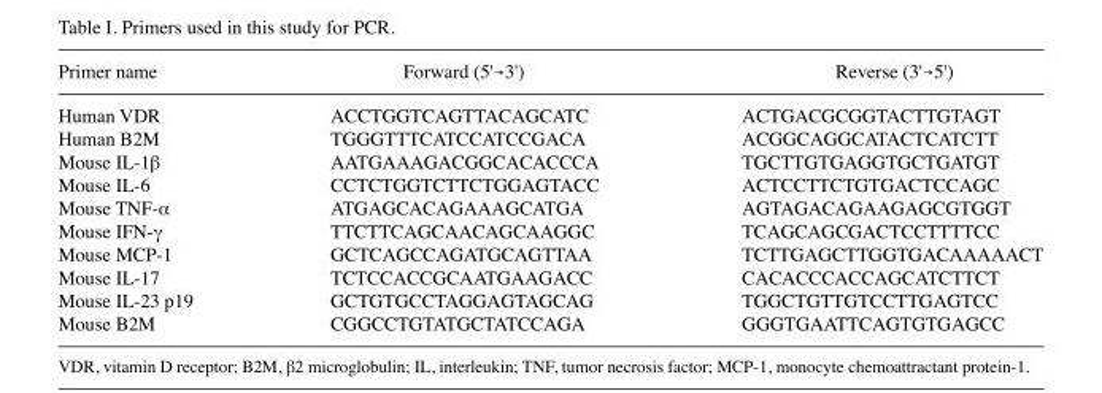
<table><thead><tr><td>Primer name</td><td>Forward (5&#x27;→3&#x27;)</td><td>Reverse (3&#x27;→5&#x27;)</td></tr></thead><tbody><tr><td>Human VDR</td><td>ACCTGGTCAGTTACAGCATC</td><td>ACTGACGCGGTACTTGTAGT</td></tr><tr><td>Human B2M</td><td>TGGGTTTCATCCATCCGACA</td><td>ACGGCAGGCATACTCATCTT</td></tr><tr><td>Mouse IL-1β</td><td>AATGAAAGACGGCACACCCA</td><td>TGCTTGTGAGGTGCTGATGT</td></tr><tr><td>Mouse IL-6</td><td>CCTCTGGTCTTCTGGAGTACC</td><td>ACTCCTTCTGTGACTCCAGC</td></tr><tr><td>Mouse TNF-α</td><td>ATGAGCACAGAAAGCATGA</td><td>AGTAGACAGAAGAGCGTGGT</td></tr><tr><td>Mouse IFN-γ</td><td>TTCTTCAGCAACAGCAAGGC</td><td>TCAGCAGCGACTCCTTTTCC</td></tr><tr><td>Mouse MCP-1</td><td>GCTCAGCCAGATGCAGTTAA</td><td>TCTTGAGCTTGGTGACAAAAACT</td></tr><tr><td>Mouse IL-17</td><td>TCTCCACCGCAATGAAGACC</td><td>CACACCCACCAGCATCTTCT</td></tr><tr><td>Mouse IL-23 p19</td><td>GCTGTGCCTAGGAGTAGCAG</td><td>TGGCTGTTGTCCTTGAGTCC</td></tr><tr><td>Mouse B2M</td><td>CGGCCTGTATGCTATCCAGA</td><td>GGGTGAATTCAGTGTGAGCC</td></tr></tbody></table>